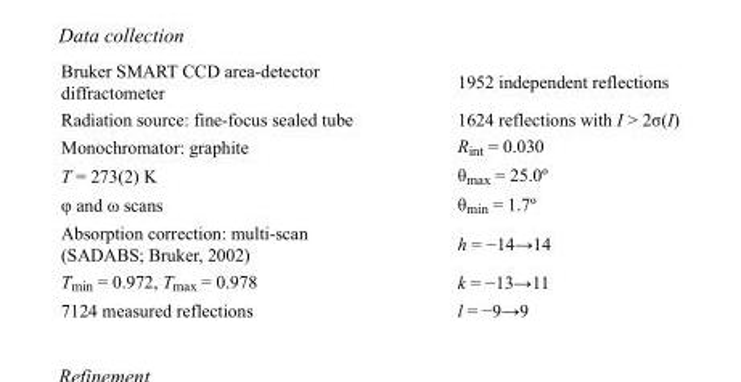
<table><tbody><tr><td>Bruker SMART CCD area-detector diffractometer</td><td>1952 independent reflections</td></tr><tr><td>Radiation source: fine-focus sealed tube</td><td>1624 reflections with I &gt; 2σ(I)</td></tr><tr><td>Monochromator: graphite</td><td>R<sub>int</sub> = 0.030</td></tr><tr><td>T = 273(2) K</td><td>θ<sub>max</sub> = 25.0º</td></tr><tr><td>φ and ω scans</td><td>θ<sub>min</sub> = 1.7º</td></tr><tr><td>Absorption correction: multi-scan (SADABS; Bruker, 2002)</td><td>h = −14→14</td></tr><tr><td>T<sub>min</sub> = 0.972, T<sub>max</sub> = 0.978</td><td>k = −13→11</td></tr><tr><td>7124 measured reflections</td><td>l = −9→9</td></tr></tbody></table>